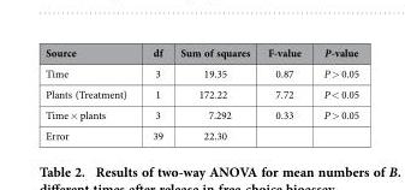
<table><thead><tr><td>Source</td><td>df</td><td>Sum of squares</td><td>F-value</td><td>P-value</td></tr></thead><tbody><tr><td>Time</td><td>3</td><td>19.35</td><td>0.87</td><td>P &gt; 0.05</td></tr><tr><td>Plants (Treatment)</td><td>1</td><td>172.22</td><td>7.72</td><td>P &lt; 0.05</td></tr><tr><td>Time × plants</td><td>3</td><td>7.292</td><td>0.33</td><td>P &gt; 0.05</td></tr><tr><td>Error</td><td>39</td><td>22.30</td><td></td><td></td></tr></tbody></table>